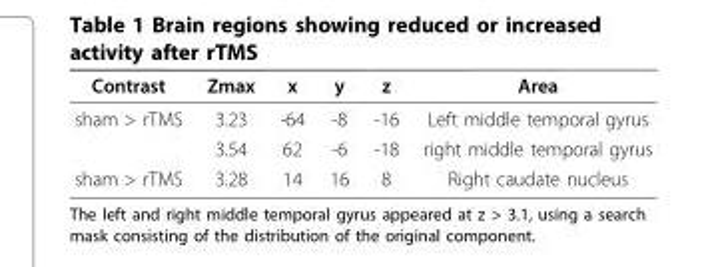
<table><thead><tr><td>Contrast</td><td>Zmax</td><td>x</td><td>y</td><td>z</td><td>Area</td></tr></thead><tbody><tr><td rowspan="2">sham &gt; rTMS</td><td>3.23</td><td>-64</td><td>-8</td><td>-16</td><td>Left middle temporal gyrus</td></tr><tr><td>3.54</td><td>62</td><td>-6</td><td>-18</td><td>right middle temporal gyrus</td></tr><tr><td>sham &gt; rTMS</td><td>3.28</td><td>14</td><td>16</td><td>8</td><td>Right caudate nucleus</td></tr></tbody></table>